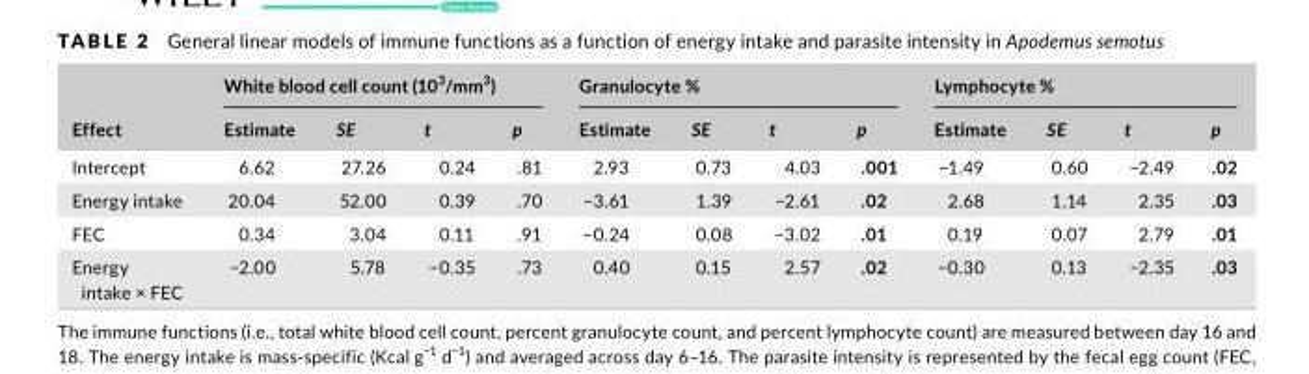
<table><thead><tr><td rowspan="2">Effect</td><td colspan="4">White blood cell count (10<sup>3</sup>/mm<sup>3</sup>)</td><td colspan="4">Granulocyte %</td><td colspan="4">Lymphocyte %</td></tr><tr><td>Estimate</td><td>SE</td><td>t</td><td>p</td><td>Estimate</td><td>SE</td><td>t</td><td>p</td><td>Estimate</td><td>SE</td><td>t</td><td>p</td></tr></thead><tbody><tr><td>Intercept</td><td>6.62</td><td>27.26</td><td>0.24</td><td>.81</td><td>2.93</td><td>0.73</td><td>4.03</td><td>.001</td><td>−1.49</td><td>0.60</td><td>−2.49</td><td>.02</td></tr><tr><td>Energy intake</td><td>20.04</td><td>52.00</td><td>0.39</td><td>.70</td><td>−3.61</td><td>1.39</td><td>−2.61</td><td>.02</td><td>2.68</td><td>1.14</td><td>2.35</td><td>.03</td></tr><tr><td>FEC</td><td>0.34</td><td>3.04</td><td>0.11</td><td>.91</td><td>−0.24</td><td>0.08</td><td>−3.02</td><td>.01</td><td>0.19</td><td>0.07</td><td>2.79</td><td>.01</td></tr><tr><td>Energy intake × FEC</td><td>−2.00</td><td>5.78</td><td>−0.35</td><td>.73</td><td>0.40</td><td>0.15</td><td>2.57</td><td>.02</td><td>−0.30</td><td>0.13</td><td>−2.35</td><td>.03</td></tr></tbody></table>